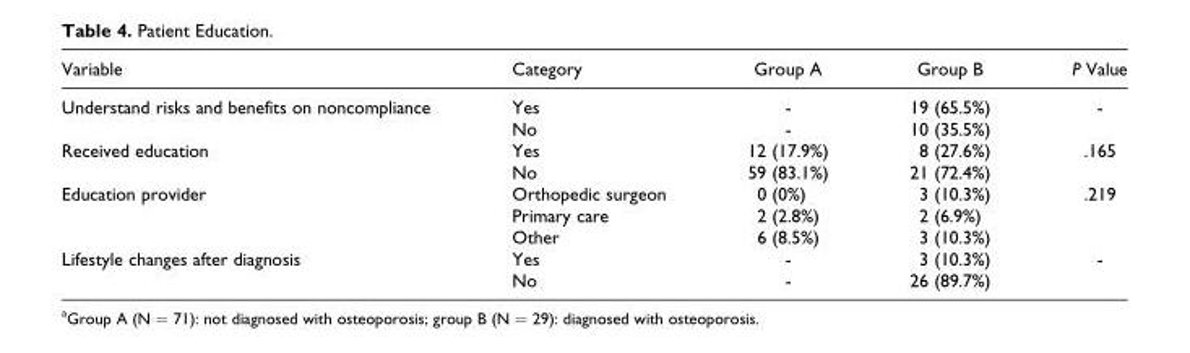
<table><thead><tr><td>Variable</td><td>Category</td><td>Group A</td><td>Group B</td><td>P Value</td></tr></thead><tbody><tr><td rowspan="2">Understand risks and benefits on noncompliance</td><td>Yes</td><td>-</td><td>19 (65.5%)</td><td rowspan="2">-</td></tr><tr><td>No</td><td>-</td><td>10 (35.5%)</td></tr><tr><td rowspan="2">Received education</td><td>Yes</td><td>12 (17.9%)</td><td>8 (27.6%)</td><td rowspan="2">.165</td></tr><tr><td>No</td><td>59 (83.1%)</td><td>21 (72.4%)</td></tr><tr><td rowspan="3">Education provider</td><td>Orthopedic surgeon</td><td>0 (0%)</td><td>3 (10.3%)</td><td rowspan="3">.219</td></tr><tr><td>Primary care</td><td>2 (2.8%)</td><td>2 (6.9%)</td></tr><tr><td>Other</td><td>6 (8.5%)</td><td>3 (10.3%)</td></tr><tr><td rowspan="2">Lifestyle changes after diagnosis</td><td>Yes</td><td>-</td><td>3 (10.3%)</td><td rowspan="2">-</td></tr><tr><td>No</td><td>-</td><td>26 (89.7%)</td></tr></tbody></table>